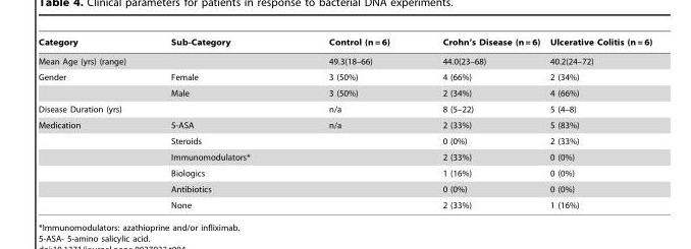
<table><thead><tr><td>Category</td><td>Sub-Category</td><td>Control (n = 6)</td><td>Crohn’s Disease (n = 6)</td><td>Ulcerative Colitis (n = 6)</td></tr></thead><tbody><tr><td>Mean Age (yrs) (range)</td><td></td><td>49.3(18–66)</td><td>44.0(23–68)</td><td>40.2(24–72)</td></tr><tr><td rowspan="2">Gender</td><td>Female</td><td>3 (50%)</td><td>4 (66%)</td><td>2 (34%)</td></tr><tr><td>Male</td><td>3 (50%)</td><td>2 (34%)</td><td>4 (66%)</td></tr><tr><td>Disease Duration (yrs)</td><td></td><td>n/a</td><td>8 (5–22)</td><td>5 (4–8)</td></tr><tr><td rowspan="6">Medication</td><td>5-ASA</td><td>n/a</td><td>2 (33%)</td><td>5 (83%)</td></tr><tr><td>Steroids</td><td></td><td>0 (0%)</td><td>2 (33%)</td></tr><tr><td>Immunomodulators*</td><td></td><td>2 (33%)</td><td>0 (0%)</td></tr><tr><td>Biologics</td><td></td><td>1 (16%)</td><td>0 (0%)</td></tr><tr><td>Antibiotics</td><td></td><td>0 (0%)</td><td>0 (0%)</td></tr><tr><td>None</td><td></td><td>2 (33%)</td><td>1 (16%)</td></tr></tbody></table>